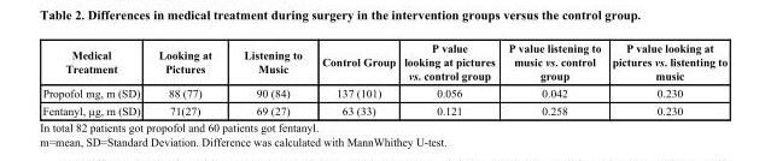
<table><thead><tr><td>Medical Treatment</td><td>Looking at Pictures</td><td>Listening to Music</td><td>Control Group</td><td>P value looking at pictures vs. control group</td><td>P value listening to music vs. control group</td><td>P value looking at pictures vs. listenting to music</td></tr></thead><tbody><tr><td>Propofol mg, m (SD)</td><td>88 (77)</td><td>90 (84)</td><td>137 (101)</td><td>0.056</td><td>0.042</td><td>0.230</td></tr><tr><td>Fentanyl, µg, m (SD)</td><td>71(27)</td><td>69 (27)</td><td>63 (33)</td><td>0.121</td><td>0.258</td><td>0.230</td></tr></tbody></table>